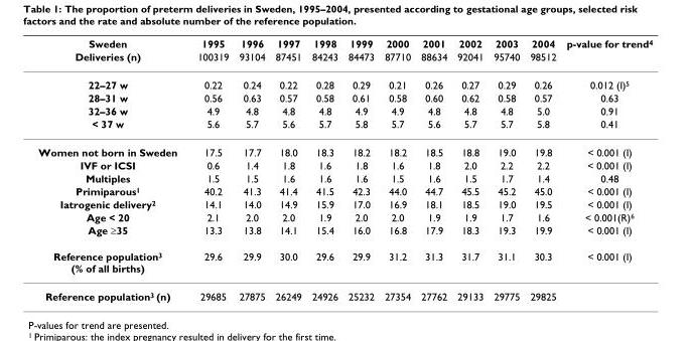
<table><thead><tr><td rowspan="2">Sweden Deliveries (n)</td><td rowspan="2">1995 100319</td><td rowspan="2">1996 93104</td><td rowspan="2">1997 87451</td><td rowspan="2">1998 84243</td><td rowspan="2">1999 84473</td><td rowspan="2">2000 87710</td><td rowspan="2">2001 88634</td><td rowspan="2">2002 92041</td><td rowspan="2">2003 95740</td><td rowspan="2">2004 98512</td><td rowspan="2">p-value for trend4</td></tr><tr></tr></thead><tbody><tr><td>22–27 w</td><td>0.22</td><td>0.24</td><td>0.22</td><td>0.28</td><td>0.29</td><td>0.21</td><td>0.26</td><td>0.27</td><td>0.29</td><td>0.26</td><td>0.012 (I)5</td></tr><tr><td>28–31 w</td><td>0.56</td><td>0.63</td><td>0.57</td><td>0.58</td><td>0.61</td><td>0.58</td><td>0.60</td><td>0.62</td><td>0.58</td><td>0.57</td><td>0.63</td></tr><tr><td>32–36 w</td><td>4.9</td><td>4.8</td><td>4.8</td><td>4.8</td><td>4.9</td><td>4.9</td><td>4.8</td><td>4.8</td><td>4.8</td><td>5.0</td><td>0.91</td></tr><tr><td>&lt; 37 w</td><td>5.6</td><td>5.7</td><td>5.6</td><td>5.7</td><td>5.8</td><td>5.7</td><td>5.6</td><td>5.7</td><td>5.7</td><td>5.8</td><td>0.41</td></tr><tr><td>Women not born in Sweden</td><td>17.5</td><td>17.7</td><td>18.0</td><td>18.3</td><td>18.2</td><td>18.2</td><td>18.5</td><td>18.8</td><td>19.0</td><td>19.8</td><td>&lt; 0.001 (I)</td></tr><tr><td>IVF or ICSI</td><td>0.6</td><td>1.4</td><td>1.8</td><td>1.6</td><td>1.8</td><td>1.6</td><td>1.8</td><td>2.0</td><td>2.2</td><td>2.2</td><td>&lt; 0.001 (I)</td></tr><tr><td>Multiples</td><td>1.5</td><td>1.5</td><td>1.6</td><td>1.6</td><td>1.6</td><td>1.5</td><td>1.6</td><td>1.5</td><td>1.7</td><td>1.4</td><td>0.48</td></tr><tr><td>Primiparous<sup>1</sup></td><td>40.2</td><td>41.3</td><td>41.4</td><td>41.5</td><td>42.3</td><td>44.0</td><td>44.7</td><td>45.5</td><td>45.2</td><td>45.0</td><td>&lt; 0.001 (I)</td></tr><tr><td>Iatrogenic delivery<sup>2</sup></td><td>14.1</td><td>14.0</td><td>14.9</td><td>15.9</td><td>17.0</td><td>16.9</td><td>18.1</td><td>18.5</td><td>19.0</td><td>19.5</td><td>&lt; 0.001 (I)</td></tr><tr><td>Age &lt; 20</td><td>2.1</td><td>2.0</td><td>2.0</td><td>1.9</td><td>2.0</td><td>2.0</td><td>1.9</td><td>1.9</td><td>1.7</td><td>1.6</td><td>&lt; 0.001(R)<sup>6</sup></td></tr><tr><td>Age ≥35</td><td>13.3</td><td>13.8</td><td>14.1</td><td>15.4</td><td>16.0</td><td>16.8</td><td>17.9</td><td>18.3</td><td>19.3</td><td>19.9</td><td>&lt; 0.001 (I)</td></tr><tr><td>Reference population<sup>3</sup> (% of all births)</td><td>29.6</td><td>29.9</td><td>30.0</td><td>29.6</td><td>29.9</td><td>31.2</td><td>31.3</td><td>31.7</td><td>31.1</td><td>30.3</td><td>&lt; 0.001 (I)</td></tr><tr><td>Reference population<sup>3</sup> (n)</td><td>29685</td><td>27875</td><td>26249</td><td>24926</td><td>25232</td><td>27354</td><td>27762</td><td>29133</td><td>29775</td><td>29825</td><td></td></tr></tbody></table>